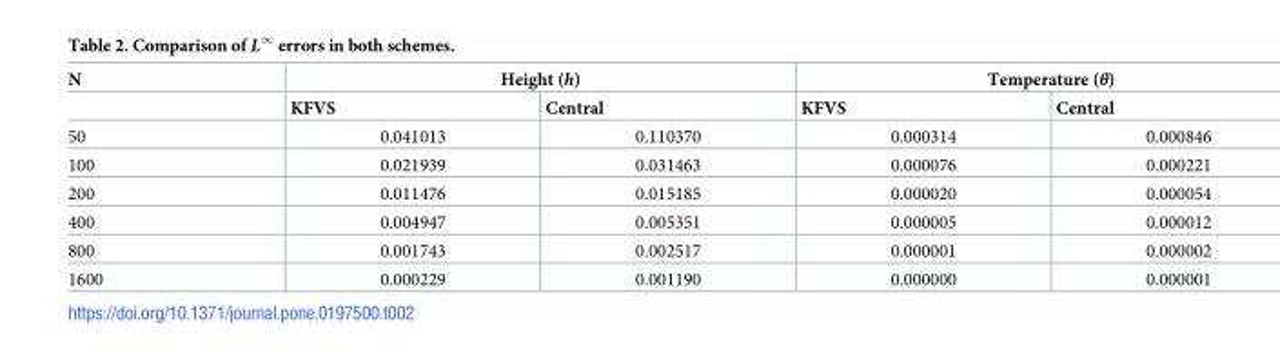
<table><thead><tr><td rowspan="2">N</td><td colspan="2">Height (h)</td><td colspan="2">Temperature (θ)</td></tr><tr><td>KFVS</td><td>Central</td><td>KFVS</td><td>Central</td></tr></thead><tbody><tr><td>50</td><td>0.041013</td><td>0.110370</td><td>0.000314</td><td>0.000846</td></tr><tr><td>100</td><td>0.021939</td><td>0.031463</td><td>0.000076</td><td>0.000221</td></tr><tr><td>200</td><td>0.011476</td><td>0.015185</td><td>0.000020</td><td>0.000054</td></tr><tr><td>400</td><td>0.004947</td><td>0.005351</td><td>0.000005</td><td>0.000012</td></tr><tr><td>800</td><td>0.001743</td><td>0.002517</td><td>0.000001</td><td>0.000002</td></tr><tr><td>1600</td><td>0.000229</td><td>0.001190</td><td>0.000000</td><td>0.000001</td></tr></tbody></table>